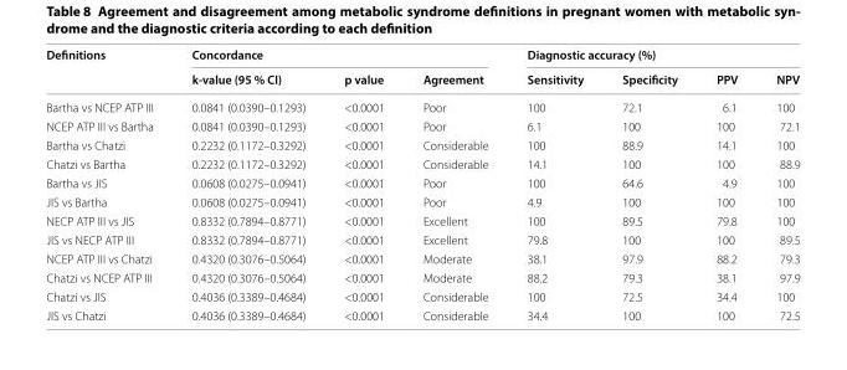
<table><thead><tr><td rowspan="2">Definitions</td><td colspan="3">Concordance</td><td colspan="4">Diagnostic accuracy (%)</td></tr><tr><td>k-value (95 % CI)</td><td>p value</td><td>Agreement</td><td>Sensitivity</td><td>Specificity</td><td>PPV</td><td>NPV</td></tr></thead><tbody><tr><td>Bartha vs NCEP ATP III</td><td>0.0841 (0.0390–0.1293)</td><td>&lt;0.0001</td><td>Poor</td><td>100</td><td>72.1</td><td>6.1</td><td>100</td></tr><tr><td>NCEP ATP III vs Bartha</td><td>0.0841 (0.0390–0.1293)</td><td>&lt;0.0001</td><td>Poor</td><td>6.1</td><td>100</td><td>100</td><td>72.1</td></tr><tr><td>Bartha vs Chatzi</td><td>0.2232 (0.1172–0.3292)</td><td>&lt;0.0001</td><td>Considerable</td><td>100</td><td>88.9</td><td>14.1</td><td>100</td></tr><tr><td>Chatzi vs Bartha</td><td>0.2232 (0.1172–0.3292)</td><td>&lt;0.0001</td><td>Considerable</td><td>14.1</td><td>100</td><td>100</td><td>88.9</td></tr><tr><td>Bartha vs JIS</td><td>0.0608 (0.0275–0.0941)</td><td>&lt;0.0001</td><td>Poor</td><td>100</td><td>64.6</td><td>4.9</td><td>100</td></tr><tr><td>JIS vs Bartha</td><td>0.0608 (0.0275–0.0941)</td><td>&lt;0.0001</td><td>Poor</td><td>4.9</td><td>100</td><td>100</td><td>100</td></tr><tr><td>NECP ATP III vs JIS</td><td>0.8332 (0.7894–0.8771)</td><td>&lt;0.0001</td><td>Excellent</td><td>100</td><td>89.5</td><td>79.8</td><td>100</td></tr><tr><td>JIS vs NECP ATP III</td><td>0.8332 (0.7894–0.8771)</td><td>&lt;0.0001</td><td>Excellent</td><td>79.8</td><td>100</td><td>100</td><td>89.5</td></tr><tr><td>NCEP ATP III vs Chatzi</td><td>0.4320 (0.3076–0.5064)</td><td>&lt;0.0001</td><td>Moderate</td><td>38.1</td><td>97.9</td><td>88.2</td><td>79.3</td></tr><tr><td>Chatzi vs NCEP ATP III</td><td>0.4320 (0.3076–0.5064)</td><td>&lt;0.0001</td><td>Moderate</td><td>88.2</td><td>79.3</td><td>38.1</td><td>97.9</td></tr><tr><td>Chatzi vs JIS</td><td>0.4036 (0.3389–0.4684)</td><td>&lt;0.0001</td><td>Considerable</td><td>100</td><td>72.5</td><td>34.4</td><td>100</td></tr><tr><td>JIS vs Chatzi</td><td>0.4036 (0.3389–0.4684)</td><td>&lt;0.0001</td><td>Considerable</td><td>34.4</td><td>100</td><td>100</td><td>72.5</td></tr></tbody></table>